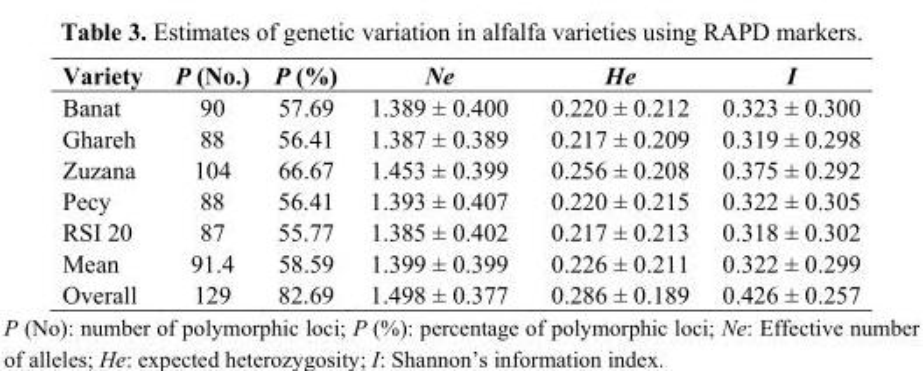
<table><thead><tr><td>Variety</td><td>P (No.)</td><td>P (%)</td><td>Ne</td><td>He</td><td>I</td></tr></thead><tbody><tr><td>Banat</td><td>90</td><td>57.69</td><td>1.389 ± 0.400</td><td>0.220 ± 0.212</td><td>0.323 ± 0.300</td></tr><tr><td>Ghareh</td><td>88</td><td>56.41</td><td>1.387 ± 0.389</td><td>0.217 ± 0.209</td><td>0.319 ± 0.298</td></tr><tr><td>Zuzana</td><td>104</td><td>66.67</td><td>1.453 ± 0.399</td><td>0.256 ± 0.208</td><td>0.375 ± 0.292</td></tr><tr><td>Pecy</td><td>88</td><td>56.41</td><td>1.393 ± 0.407</td><td>0.220 ± 0.215</td><td>0.322 ± 0.305</td></tr><tr><td>RSI 20</td><td>87</td><td>55.77</td><td>1.385 ± 0.402</td><td>0.217 ± 0.213</td><td>0.318 ± 0.302</td></tr><tr><td>Mean</td><td>91.4</td><td>58.59</td><td>1.399 ± 0.399</td><td>0.226 ± 0.211</td><td>0.322 ± 0.299</td></tr><tr><td>Overall</td><td>129</td><td>82.69</td><td>1.498 ± 0.377</td><td>0.286 ± 0.189</td><td>0.426 ± 0.257</td></tr></tbody></table>